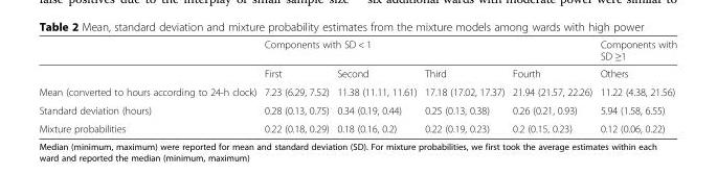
<table><thead><tr><td rowspan="2"></td><td colspan="4">Components with SD &lt; 1</td><td rowspan="2">Components with SD ≥1 Others</td></tr><tr><td>First</td><td>Second</td><td>Third</td><td>Fourth</td></tr></thead><tbody><tr><td>Mean (converted to hours according to 24-h clock)</td><td>7.23 (6.29, 7.52)</td><td>11.38 (11.11, 11.61)</td><td>17.18 (17.02, 17.37)</td><td>21.94 (21.57, 22.26)</td><td>11.22 (4.38, 21.56)</td></tr><tr><td>Standard deviation (hours)</td><td>0.28 (0.13, 0.75)</td><td>0.34 (0.19, 0.44)</td><td>0.25 (0.13, 0.38)</td><td>0.26 (0.21, 0.93)</td><td>5.94 (1.58, 6.55)</td></tr><tr><td>Mixture probabilities</td><td>0.22 (0.18, 0.29)</td><td>0.18 (0.16, 0.2)</td><td>0.22 (0.19, 0.23)</td><td>0.2 (0.15, 0.23)</td><td>0.12 (0.06, 0.22)</td></tr></tbody></table>